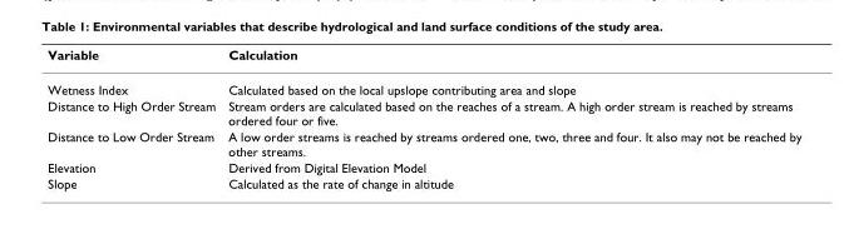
<table><thead><tr><td>Variable</td><td>Calculation</td></tr></thead><tbody><tr><td>Wetness Index</td><td>Calculated based on the local upslope contributing area and slope</td></tr><tr><td>Distance to High Order Stream</td><td>Stream orders are calculated based on the reaches of a stream. A high order stream is reached by streams ordered four or five.</td></tr><tr><td>Distance to Low Order Stream</td><td>A low order streams is reached by streams ordered one, two, three and four. It also may not be reached by other streams.</td></tr><tr><td>Elevation</td><td>Derived from Digital Elevation Model</td></tr><tr><td>Slope</td><td>Calculated as the rate of change in altitude</td></tr></tbody></table>